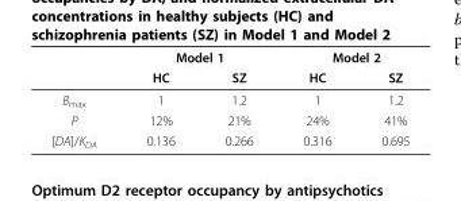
<table><thead><tr><td rowspan="2"></td><td colspan="2">Model 1</td><td colspan="2">Model 2</td></tr><tr><td>HC</td><td>SZ</td><td>HC</td><td>SZ</td></tr></thead><tbody><tr><td>B<sub>max</sub></td><td>1</td><td>1.2</td><td>1</td><td>1.2</td></tr><tr><td>P</td><td>12%</td><td>21%</td><td>24%</td><td>41%</td></tr><tr><td>[DA]/K<sub>DA</sub></td><td>0.136</td><td>0.266</td><td>0.316</td><td>0.695</td></tr></tbody></table>